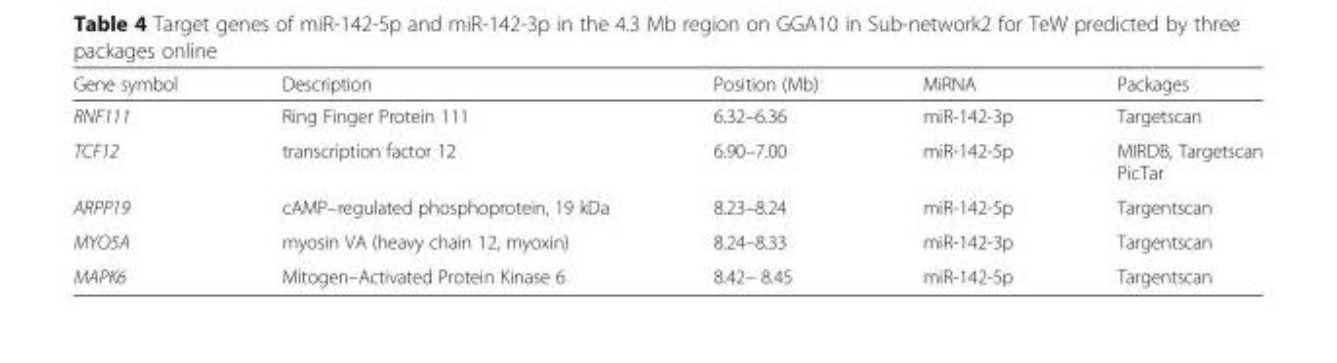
<table><thead><tr><td>Gene symbol</td><td>Description</td><td>Position (Mb)</td><td>MiRNA</td><td>Packages</td></tr></thead><tbody><tr><td>RNF111</td><td>Ring Finger Protein 111</td><td>6.32–6.36</td><td>miR-142-3p</td><td>Targetscan</td></tr><tr><td>TCF12</td><td>transcription factor 12</td><td>6.90–7.00</td><td>miR-142-5p</td><td>MIRDB, Targetscan PicTar</td></tr><tr><td>ARPP19</td><td>cAMP–regulated phosphoprotein, 19 kDa</td><td>8.23–8.24</td><td>miR-142-5p</td><td>Targentscan</td></tr><tr><td>MYO5A</td><td>myosin VA (heavy chain 12, myoxin)</td><td>8.24–8.33</td><td>miR-142-3p</td><td>Targentscan</td></tr><tr><td>MAPK6</td><td>Mitogen–Activated Protein Kinase 6</td><td>8.42– 8.45</td><td>miR-142-5p</td><td>Targentscan</td></tr></tbody></table>